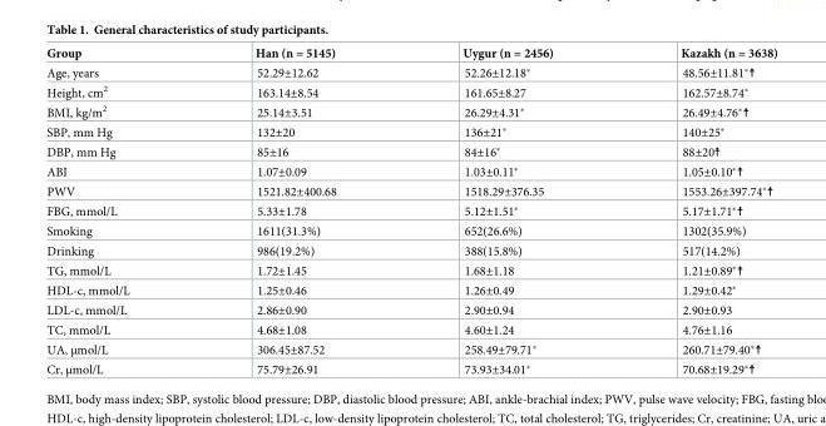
<table><thead><tr><td>Group</td><td>Han (n = 5145)</td><td>Uygur (n = 2456)</td><td>Kazakh (n = 3638)</td></tr></thead><tbody><tr><td>Age, years</td><td>52.29±12.62</td><td>52.26±12.18*</td><td>48.56±11.81*☨</td></tr><tr><td>Height, cm<sup>2</sup></td><td>163.14±8.54</td><td>161.65±8.27</td><td>162.57±8.74*</td></tr><tr><td>BMI, kg/m<sup>2</sup></td><td>25.14±3.51</td><td>26.29±4.31*</td><td>26.49±4.76*☨</td></tr><tr><td>SBP, mm Hg</td><td>132±20</td><td>136±21*</td><td>140±25*</td></tr><tr><td>DBP, mm Hg</td><td>85±16</td><td>84±16*</td><td>88±20☨</td></tr><tr><td>ABI</td><td>1.07±0.09</td><td>1.03±0.11*</td><td>1.05±0.10*☨</td></tr><tr><td>PWV</td><td>1521.82±400.68</td><td>1518.29±376.35</td><td>1553.26±397.74*☨</td></tr><tr><td>FBG, mmol/L</td><td>5.33±1.78</td><td>5.12±1.51*</td><td>5.17±1.71*☨</td></tr><tr><td>Smoking</td><td>1611(31.3%)</td><td>652(26.6%)</td><td>1302(35.9%)</td></tr><tr><td>Drinking</td><td>986(19.2%)</td><td>388(15.8%)</td><td>517(14.2%)</td></tr><tr><td>TG, mmol/L</td><td>1.72±1.45</td><td>1.68±1.18</td><td>1.21±0.89*☨</td></tr><tr><td>HDL-c, mmol/L</td><td>1.25±0.46</td><td>1.26±0.49</td><td>1.29±0.42*</td></tr><tr><td>LDL-c, mmol/L</td><td>2.86±0.90</td><td>2.90±0.94</td><td>2.90±0.93</td></tr><tr><td>TC, mmol/L</td><td>4.68±1.08</td><td>4.60±1.24</td><td>4.76±1.16</td></tr><tr><td>UA, μmol/L</td><td>306.45±87.52</td><td>258.49±79.71*</td><td>260.71±79.40*☨</td></tr><tr><td>Cr, μmol/L</td><td>75.79±26.91</td><td>73.93±34.01*</td><td>70.68±19.29*☨</td></tr></tbody></table>